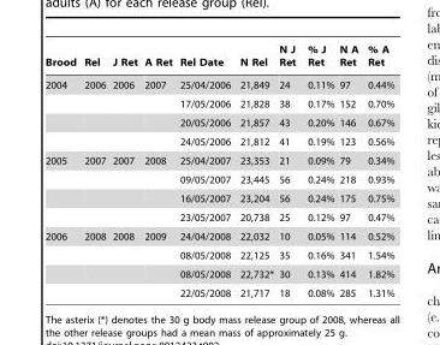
<table><thead><tr><td>Brood</td><td>Rel</td><td>J Ret</td><td>A Ret</td><td>Rel Date</td><td>N Rel</td><td>N J Ret</td><td>% J Ret</td><td>N A Ret</td><td>% A Ret</td></tr></thead><tbody><tr><td rowspan="4">2004</td><td>2006</td><td>2006</td><td>2007</td><td>25/04/2006</td><td>21,849</td><td>24</td><td>0.11%</td><td>97</td><td>0.44%</td></tr><tr><td></td><td></td><td></td><td>17/05/2006</td><td>21,828</td><td>38</td><td>0.17%</td><td>152</td><td>0.70%</td></tr><tr><td></td><td></td><td></td><td>20/05/2006</td><td>21,857</td><td>43</td><td>0.20%</td><td>146</td><td>0.67%</td></tr><tr><td></td><td></td><td></td><td>24/05/2006</td><td>21,812</td><td>41</td><td>0.19%</td><td>123</td><td>0.56%</td></tr><tr><td rowspan="4">2005</td><td>2007</td><td>2007</td><td>2008</td><td>25/04/2007</td><td>23,353</td><td>21</td><td>0.09%</td><td>79</td><td>0.34%</td></tr><tr><td></td><td></td><td></td><td>09/05/2007</td><td>23,445</td><td>56</td><td>0.24%</td><td>218</td><td>0.93%</td></tr><tr><td></td><td></td><td></td><td>16/05/2007</td><td>23,204</td><td>56</td><td>0.24%</td><td>175</td><td>0.75%</td></tr><tr><td></td><td></td><td></td><td>23/05/2007</td><td>20,738</td><td>25</td><td>0.12%</td><td>97</td><td>0.47%</td></tr><tr><td rowspan="4">2006</td><td>2008</td><td>2008</td><td>2009</td><td>24/04/2008</td><td>22,032</td><td>10</td><td>0.05%</td><td>114</td><td>0.52%</td></tr><tr><td></td><td></td><td></td><td>08/05/2008</td><td>22,125</td><td>35</td><td>0.16%</td><td>341</td><td>1.54%</td></tr><tr><td></td><td></td><td></td><td>08/05/2008</td><td>22,732*</td><td>30</td><td>0.13%</td><td>414</td><td>1.82%</td></tr><tr><td></td><td></td><td></td><td>22/05/2008</td><td>21,717</td><td>18</td><td>0.08%</td><td>285</td><td>1.31%</td></tr></tbody></table>